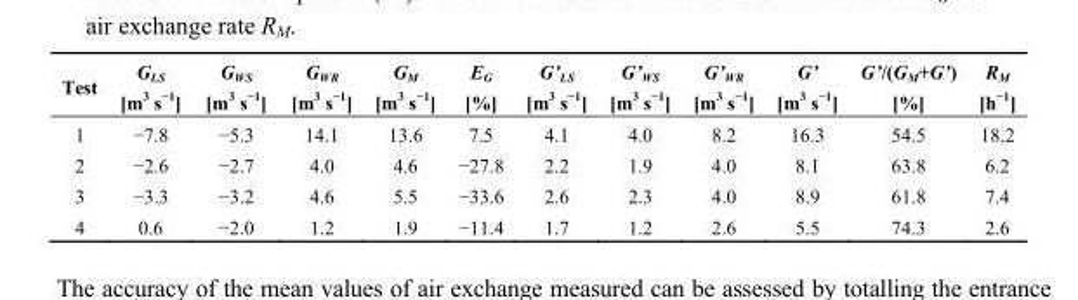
<table><thead><tr><td>Test</td><td>G<sub>LS</sub> [m<sup>3</sup> s<sup>−1</sup>]</td><td>G<sub>WS</sub> [m<sup>3</sup> s<sup>−1</sup>]</td><td>G<sub>WR</sub> [m<sup>3</sup> s<sup>−1</sup>]</td><td>G<sub>M</sub> [m<sup>3</sup> s<sup>−1</sup>]</td><td>E<sub>G</sub> [%]</td><td>G’<sub>LS</sub> [m<sup>3</sup> s<sup>−1</sup>]</td><td>G’<sub>WS</sub> [m<sup>3</sup> s<sup>−1</sup>]</td><td>G’<sub>WR</sub> [m<sup>3</sup> s<sup>−1</sup>]</td><td>G’ [m<sup>3</sup> s<sup>−1</sup>]</td><td>G’/(G<sub>M</sub>+G’) [%]</td><td>R<sub>M</sub> [h<sup>−1</sup>]</td></tr></thead><tbody><tr><td>1</td><td>−7.8</td><td>−5.3</td><td>14.1</td><td>13.6</td><td>7.5</td><td>4.1</td><td>4.0</td><td>8.2</td><td>16.3</td><td>54.5</td><td>18.2</td></tr><tr><td>2</td><td>−2.6</td><td>−2.7</td><td>4.0</td><td>4.6</td><td>−27.8</td><td>2.2</td><td>1.9</td><td>4.0</td><td>8.1</td><td>63.8</td><td>6.2</td></tr><tr><td>3</td><td>−3.3</td><td>−3.2</td><td>4.6</td><td>5.5</td><td>−33.6</td><td>2.6</td><td>2.3</td><td>4.0</td><td>8.9</td><td>61.8</td><td>7.4</td></tr><tr><td>4</td><td>0.6</td><td>−2.0</td><td>1.2</td><td>1.9</td><td>−11.4</td><td>1.7</td><td>1.2</td><td>2.6</td><td>5.5</td><td>74.3</td><td>2.6</td></tr></tbody></table>